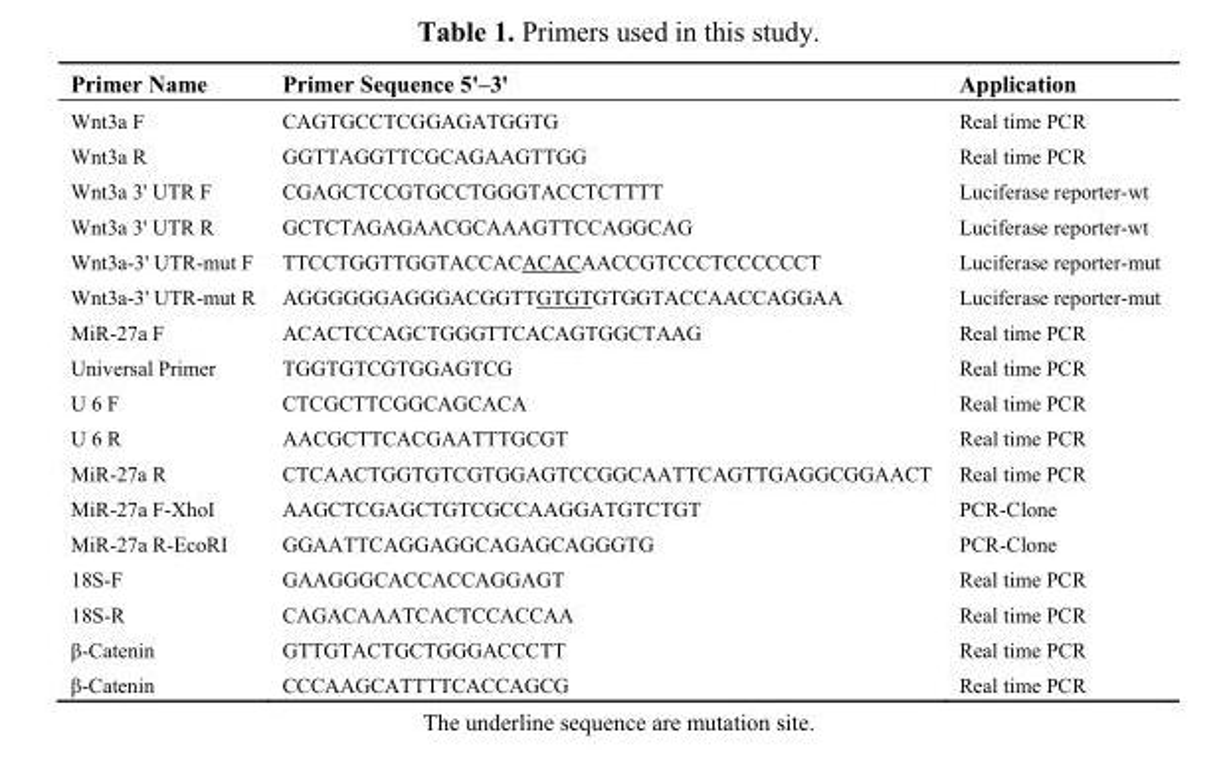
<table><thead><tr><td>Primer Name</td><td>Primer Sequence 5&#x27;–3&#x27;</td><td>Application</td></tr></thead><tbody><tr><td>Wnt3a F</td><td>CAGTGCCTCGGAGATGGTG</td><td>Real time PCR</td></tr><tr><td>Wnt3a R</td><td>GGTTAGGTTCGCAGAAGTTGG</td><td>Real time PCR</td></tr><tr><td>Wnt3a 3&#x27; UTR F</td><td>CGAGCTCCGTGCCTGGGTACCTCTTTT</td><td>Luciferase reporter-wt</td></tr><tr><td>Wnt3a 3&#x27; UTR R</td><td>GCTCTAGAGAACGCAAAGTTCCAGGCAG</td><td>Luciferase reporter-wt</td></tr><tr><td>Wnt3a-3&#x27; UTR-mut F</td><td>TTCCTGGTTGGTACCACACACAACCGTCCCTCCCCCCT</td><td>Luciferase reporter-mut</td></tr><tr><td>Wnt3a-3&#x27; UTR-mut R</td><td>AGGGGGGAGGGACGGTTGTGTGTGGTACCAACCAGGAA</td><td>Luciferase reporter-mut</td></tr><tr><td>MiR-27a F</td><td>ACACTCCAGCTGGGTTCACAGTGGCTAAG</td><td>Real time PCR</td></tr><tr><td>Universal Primer</td><td>TGGTGTCGTGGAGTCG</td><td>Real time PCR</td></tr><tr><td>U 6 F</td><td>CTCGCTTCGGCAGCACA</td><td>Real time PCR</td></tr><tr><td>U 6 R</td><td>AACGCTTCACGAATTTGCGT</td><td>Real time PCR</td></tr><tr><td>MiR-27a R</td><td>CTCAACTGGTGTCGTGGAGTCCGGCAATTCAGTTGAGGCGGAACT</td><td>Real time PCR</td></tr><tr><td>MiR-27a F-XhoI</td><td>AAGCTCGAGCTGTCGCCAAGGATGTCTGT</td><td>PCR-Clone</td></tr><tr><td>MiR-27a R-EcoRI</td><td>GGAATTCAGGAGGCAGAGCAGGGTG</td><td>PCR-Clone</td></tr><tr><td>18S-F</td><td>GAAGGGCACCACCAGGAGT</td><td>Real time PCR</td></tr><tr><td>18S-R</td><td>CAGACAAATCACTCCACCAA</td><td>Real time PCR</td></tr><tr><td>β-Catenin</td><td>GTTGTACTGCTGGGACCCTT</td><td>Real time PCR</td></tr><tr><td>β-Catenin</td><td>CCCAAGCATTTTCACCAGCG</td><td>Real time PCR</td></tr></tbody></table>